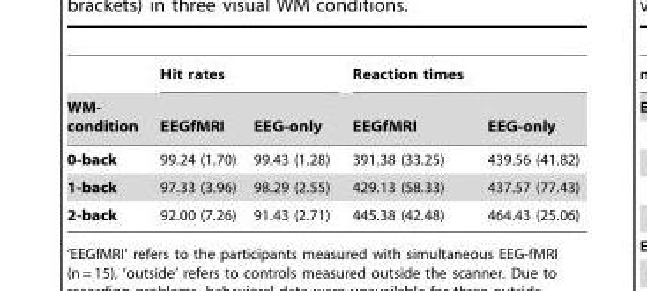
<table><thead><tr><td rowspan="2">WM- condition</td><td colspan="2">Hit rates</td><td colspan="2">Reaction times</td></tr><tr><td>EEGfMRI</td><td>EEG-only</td><td>EEGfMRI</td><td>EEG-only</td></tr></thead><tbody><tr><td>0-back</td><td>99.24 (1.70)</td><td>99.43 (1.28)</td><td>391.38 (33.25)</td><td>439.56 (41.82)</td></tr><tr><td>1-back</td><td>97.33 (3.96)</td><td>98.29 (2.55)</td><td>429.13 (58.33)</td><td>437.57 (77.43)</td></tr><tr><td>2-back</td><td>92.00 (7.26)</td><td>91.43 (2.71)</td><td>445.38 (42.48)</td><td>464.43 (25.06)</td></tr></tbody></table>